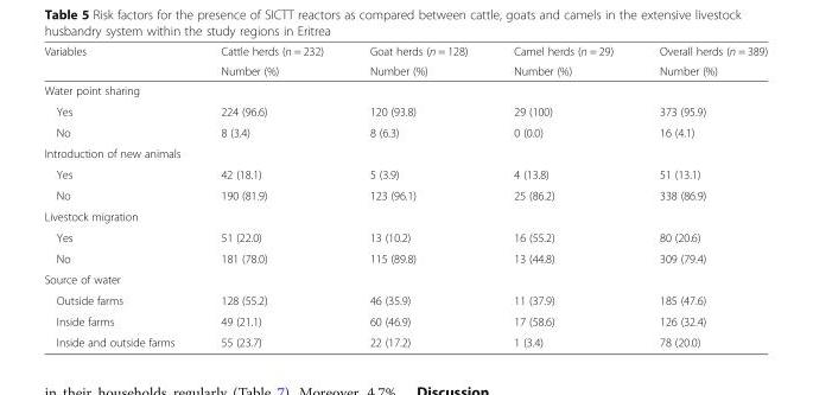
<table><thead><tr><td rowspan="2">Variables</td><td rowspan="2">Cattle herds (n = 232) Number (%)</td><td rowspan="2">Goat herds (n = 128) Number (%)</td><td rowspan="2">Camel herds (n = 29) Number (%)</td><td rowspan="2">Overall herds (n = 389) Number (%)</td></tr><tr></tr></thead><tbody><tr><td colspan="5">Water point sharing</td></tr><tr><td>Yes</td><td>224 (96.6)</td><td>120 (93.8)</td><td>29 (100)</td><td>373 (95.9)</td></tr><tr><td>No</td><td>8 (3.4)</td><td>8 (6.3)</td><td>0 (0.0)</td><td>16 (4.1)</td></tr><tr><td colspan="5">Introduction of new animals</td></tr><tr><td>Yes</td><td>42 (18.1)</td><td>5 (3.9)</td><td>4 (13.8)</td><td>51 (13.1)</td></tr><tr><td>No</td><td>190 (81.9)</td><td>123 (96.1)</td><td>25 (86.2)</td><td>338 (86.9)</td></tr><tr><td colspan="5">Livestock migration</td></tr><tr><td>Yes</td><td>51 (22.0)</td><td>13 (10.2)</td><td>16 (55.2)</td><td>80 (20.6)</td></tr><tr><td>No</td><td>181 (78.0)</td><td>115 (89.8)</td><td>13 (44.8)</td><td>309 (79.4)</td></tr><tr><td colspan="5">Source of water</td></tr><tr><td>Outside farms</td><td>128 (55.2)</td><td>46 (35.9)</td><td>11 (37.9)</td><td>185 (47.6)</td></tr><tr><td>Inside farms</td><td>49 (21.1)</td><td>60 (46.9)</td><td>17 (58.6)</td><td>126 (32.4)</td></tr><tr><td>Inside and outside farms</td><td>55 (23.7)</td><td>22 (17.2)</td><td>1 (3.4)</td><td>78 (20.0)</td></tr></tbody></table>